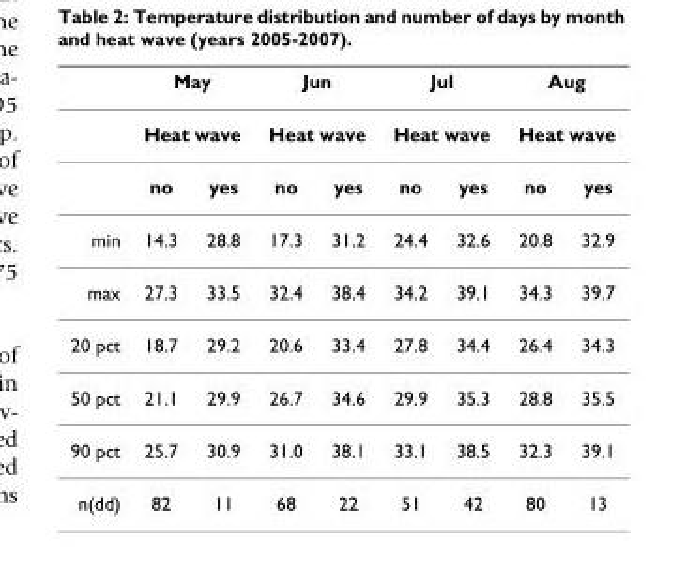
<table><thead><tr><td rowspan="3"></td><td rowspan="2" colspan="2">May Heat wave</td><td rowspan="2" colspan="2">Jun Heat wave</td><td rowspan="2" colspan="2">Jul Heat wave</td><td rowspan="2" colspan="2">Aug Heat wave</td></tr><tr></tr><tr><td>no</td><td>yes</td><td>no</td><td>yes</td><td>no</td><td>yes</td><td>no</td><td>yes</td></tr></thead><tbody><tr><td>min</td><td>14.3</td><td>28.8</td><td>17.3</td><td>31.2</td><td>24.4</td><td>32.6</td><td>20.8</td><td>32.9</td></tr><tr><td>max</td><td>27.3</td><td>33.5</td><td>32.4</td><td>38.4</td><td>34.2</td><td>39.1</td><td>34.3</td><td>39.7</td></tr><tr><td>20 pct</td><td>18.7</td><td>29.2</td><td>20.6</td><td>33.4</td><td>27.8</td><td>34.4</td><td>26.4</td><td>34.3</td></tr><tr><td>50 pct</td><td>21.1</td><td>29.9</td><td>26.7</td><td>34.6</td><td>29.9</td><td>35.3</td><td>28.8</td><td>35.5</td></tr><tr><td>90 pct</td><td>25.7</td><td>30.9</td><td>31.0</td><td>38.1</td><td>33.1</td><td>38.5</td><td>32.3</td><td>39.1</td></tr><tr><td>n(dd)</td><td>82</td><td>11</td><td>68</td><td>22</td><td>51</td><td>42</td><td>80</td><td>13</td></tr></tbody></table>